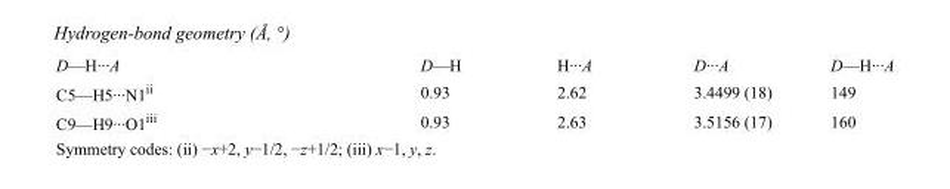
<table><tbody><tr><td>D—H···A</td><td>D—H</td><td>H···A</td><td>D···A</td><td>D—H···A</td></tr><tr><td>C5—H5···N1<sup>ii</sup></td><td>0.93</td><td>2.62</td><td>3.4499 (18)</td><td>149</td></tr><tr><td>C9—H9···O1<sup>iii</sup></td><td>0.93</td><td>2.63</td><td>3.5156 (17)</td><td>160</td></tr></tbody></table>